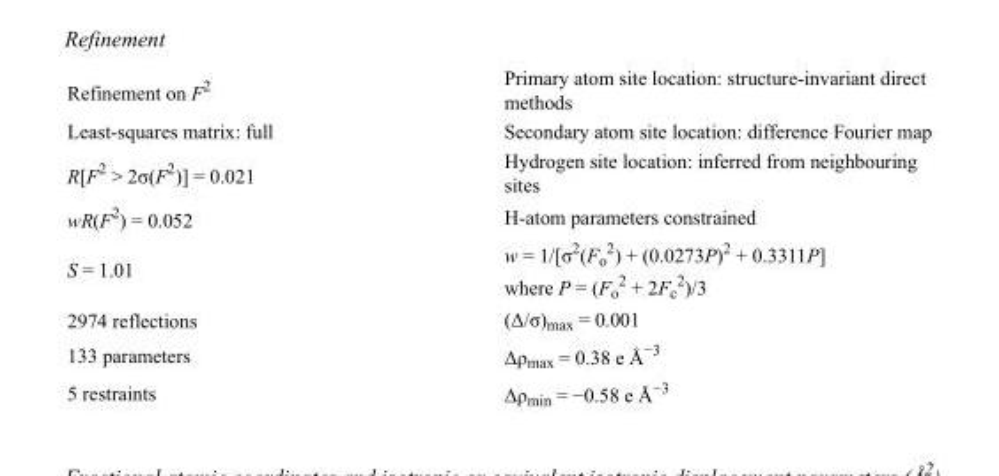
<table><tbody><tr><td>Refinement on F<sup>2</sup></td><td>Primary atom site location: structure-invariant direct methods</td></tr><tr><td>Least-squares matrix: full</td><td>Secondary atom site location: difference Fourier map</td></tr><tr><td>R[F<sup>2</sup> &gt; 2σ(F<sup>2</sup>)] = 0.021</td><td>Hydrogen site location: inferred from neighbouring sites</td></tr><tr><td>wR(F<sup>2</sup>) = 0.052</td><td>H-atom parameters constrained</td></tr><tr><td>S = 1.01</td><td>w = 1/[σ<sup>2</sup>(F<sub>o</sub> <sup>2</sup>) + (0.0273P)<sup>2</sup> + 0.3311P] where P = (F<sub>o</sub> <sup>2</sup> + 2F<sub>c</sub> <sup>2</sup>)/3</td></tr><tr><td>2974 reflections</td><td>(Δ/σ)<sub>max</sub> = 0.001</td></tr><tr><td>133 parameters</td><td>Δρ<sub>max</sub> = 0.38 e Å<sup>−3</sup></td></tr><tr><td>5 restraints</td><td>Δρ<sub>min</sub> = −0.58 e Å<sup>−3</sup></td></tr></tbody></table>